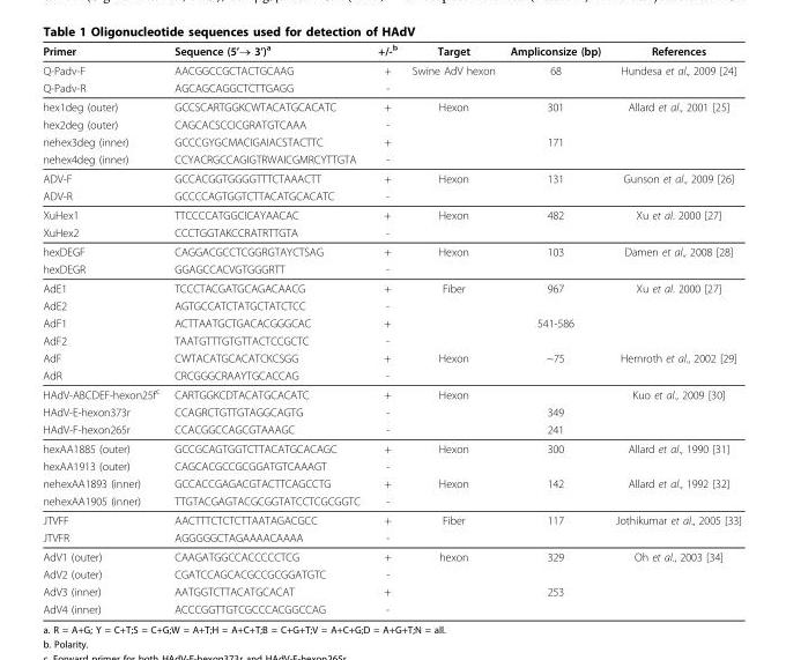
<table><thead><tr><td>Primer</td><td>Sequence (5’→ 3’)<sup>a</sup></td><td>+/-<sup>b</sup></td><td>Target</td><td>Ampliconsize (bp)</td><td>References</td></tr></thead><tbody><tr><td>Q-Padv-F</td><td>AACGGCCGCTACTGCAAG</td><td>+</td><td>Swine AdV hexon</td><td>68</td><td>Hundesa et al., 2009 [24]</td></tr><tr><td>Q-Padv-R</td><td>AGCAGCAGGCTCTTGAGG</td><td>-</td><td></td><td></td><td></td></tr><tr><td>hex1deg (outer)</td><td>GCCSCARTGGKCWTACATGCACATC</td><td>+</td><td>Hexon</td><td>301</td><td>Allard et al., 2001 [25]</td></tr><tr><td>hex2deg (outer)</td><td>CAGCACSCCICGRATGTCAAA</td><td>-</td><td></td><td></td><td></td></tr><tr><td>nehex3deg (inner)</td><td>GCCCGYGCMACIGAIACSTACTTC</td><td>+</td><td></td><td>171</td><td></td></tr><tr><td>nehex4deg (inner)</td><td>CCYACRGCCAGIGTRWAICGMRCYTTGTA</td><td>-</td><td></td><td></td><td></td></tr><tr><td>ADV-F</td><td>GCCACGGTGGGGTTTCTAAACTT</td><td>+</td><td>Hexon</td><td>131</td><td>Gunson et al., 2009 [26]</td></tr><tr><td>ADV-R</td><td>GCCCCAGTGGTCTTACATGCACATC</td><td>-</td><td></td><td></td><td></td></tr><tr><td>XuHex1</td><td>TTCCCCATGGCICAYAACAC</td><td>+</td><td>Hexon</td><td>482</td><td>Xu et al. 2000 [27]</td></tr><tr><td>XuHex2</td><td>CCCTGGTAKCCRATRTTGTA</td><td>-</td><td></td><td></td><td></td></tr><tr><td>hexDEGF</td><td>CAGGACGCCTCGGRGTAYCTSAG</td><td>+</td><td>Hexon</td><td>103</td><td>Damen et al., 2008 [28]</td></tr><tr><td>hexDEGR</td><td>GGAGCCACVGTGGGRTT</td><td>-</td><td></td><td></td><td></td></tr><tr><td>AdE1</td><td>TCCCTACGATGCAGACAACG</td><td>+</td><td>Fiber</td><td>967</td><td>Xu et al. 2000 [27]</td></tr><tr><td>AdE2</td><td>AGTGCCATCTATGCTATCTCC</td><td>-</td><td></td><td></td><td></td></tr><tr><td>AdF1</td><td>ACTTAATGCTGACACGGGCAC</td><td>+</td><td></td><td>541-586</td><td></td></tr><tr><td>AdF2</td><td>TAATGTTTGTGTTACTCCGCTC</td><td>-</td><td></td><td></td><td></td></tr><tr><td>AdF</td><td>CWTACATGCACATCKCSGG</td><td>+</td><td>Hexon</td><td>~75</td><td>Hernroth et al., 2002 [29]</td></tr><tr><td>AdR</td><td>CRCGGGCRAAYTGCACCAG</td><td>-</td><td></td><td></td><td></td></tr><tr><td>HAdV-ABCDEF-hexon25f<sup>c</sup></td><td>CARTGGKCDTACATGCACATC</td><td>+</td><td>Hexon</td><td></td><td>Kuo et al., 2009 [30]</td></tr><tr><td>HAdV-E-hexon373r</td><td>CCAGRCTGTTGTAGGCAGTG</td><td>-</td><td></td><td>349</td><td></td></tr><tr><td>HAdV-F-hexon265r</td><td>CCACGGCCAGCGTAAAGC</td><td>-</td><td></td><td>241</td><td></td></tr><tr><td>hexAA1885 (outer)</td><td>GCCGCAGTGGTCTTACATGCACAGC</td><td>+</td><td>Hexon</td><td>300</td><td>Allard et al., 1990 [31]</td></tr><tr><td>hexAA1913 (outer)</td><td>CAGCACGCCGCGGATGTCAAAGT</td><td>-</td><td></td><td></td><td></td></tr><tr><td>nehexAA1893 (inner)</td><td>GCCACCGAGACGTACTTCAGCCTG</td><td>+</td><td>Hexon</td><td>142</td><td>Allard et al., 1992 [32]</td></tr><tr><td>nehexAA1905 (inner)</td><td>TTGTACGAGTACGCGGTATCCTCGCGGTC</td><td>-</td><td></td><td></td><td></td></tr><tr><td>JTVFF</td><td>AACTTTCTCTCTTAATAGACGCC</td><td>+</td><td>Fiber</td><td>117</td><td>Jothikumar et al., 2005 [33]</td></tr><tr><td>JTVFR</td><td>AGGGGGCTAGAAAACAAAA</td><td>-</td><td></td><td></td><td></td></tr><tr><td>AdV1 (outer)</td><td>CAAGATGGCCACCCCCTCG</td><td>+</td><td>hexon</td><td>329</td><td>Oh et al., 2003 [34]</td></tr><tr><td>AdV2 (outer)</td><td>CGATCCAGCACGCCGCGGATGTC</td><td>-</td><td></td><td></td><td></td></tr><tr><td>AdV3 (inner)</td><td>AATGGTCTTACATGCACAT</td><td>+</td><td></td><td>253</td><td></td></tr><tr><td>AdV4 (inner)</td><td>ACCCGGTTGTCGCCCACGGCCAG</td><td>-</td><td></td><td></td><td></td></tr></tbody></table>